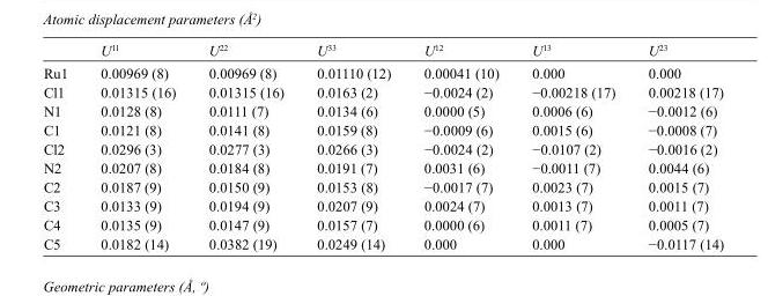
<table><thead><tr><td></td><td>U<sup>11</sup></td><td>U<sup>22</sup></td><td>U<sup>33</sup></td><td>U<sup>12</sup></td><td>U<sup>13</sup></td><td>U<sup>23</sup></td></tr></thead><tbody><tr><td>Ru1</td><td>0.00969 (8)</td><td>0.00969 (8)</td><td>0.01110 (12)</td><td>0.00041 (10)</td><td>0.000</td><td>0.000</td></tr><tr><td>Cl1</td><td>0.01315 (16)</td><td>0.01315 (16)</td><td>0.0163 (2)</td><td>−0.0024 (2)</td><td>−0.00218 (17)</td><td>0.00218 (17)</td></tr><tr><td>N1</td><td>0.0128 (8)</td><td>0.0111 (7)</td><td>0.0134 (6)</td><td>0.0000 (5)</td><td>0.0006 (6)</td><td>−0.0012 (6)</td></tr><tr><td>C1</td><td>0.0121 (8)</td><td>0.0141 (8)</td><td>0.0159 (8)</td><td>−0.0009 (6)</td><td>0.0015 (6)</td><td>−0.0008 (7)</td></tr><tr><td>Cl2</td><td>0.0296 (3)</td><td>0.0277 (3)</td><td>0.0266 (3)</td><td>−0.0024 (2)</td><td>−0.0107 (2)</td><td>−0.0016 (2)</td></tr><tr><td>N2</td><td>0.0207 (8)</td><td>0.0184 (8)</td><td>0.0191 (7)</td><td>0.0031 (6)</td><td>−0.0011 (7)</td><td>0.0044 (6)</td></tr><tr><td>C2</td><td>0.0187 (9)</td><td>0.0150 (9)</td><td>0.0153 (8)</td><td>−0.0017 (7)</td><td>0.0023 (7)</td><td>0.0015 (7)</td></tr><tr><td>C3</td><td>0.0133 (9)</td><td>0.0194 (9)</td><td>0.0207 (9)</td><td>0.0024 (7)</td><td>0.0013 (7)</td><td>0.0011 (7)</td></tr><tr><td>C4</td><td>0.0135 (9)</td><td>0.0147 (9)</td><td>0.0157 (7)</td><td>0.0000 (6)</td><td>0.0011 (7)</td><td>0.0005 (7)</td></tr><tr><td>C5</td><td>0.0182 (14)</td><td>0.0382 (19)</td><td>0.0249 (14)</td><td>0.000</td><td>0.000</td><td>−0.0117 (14)</td></tr></tbody></table>